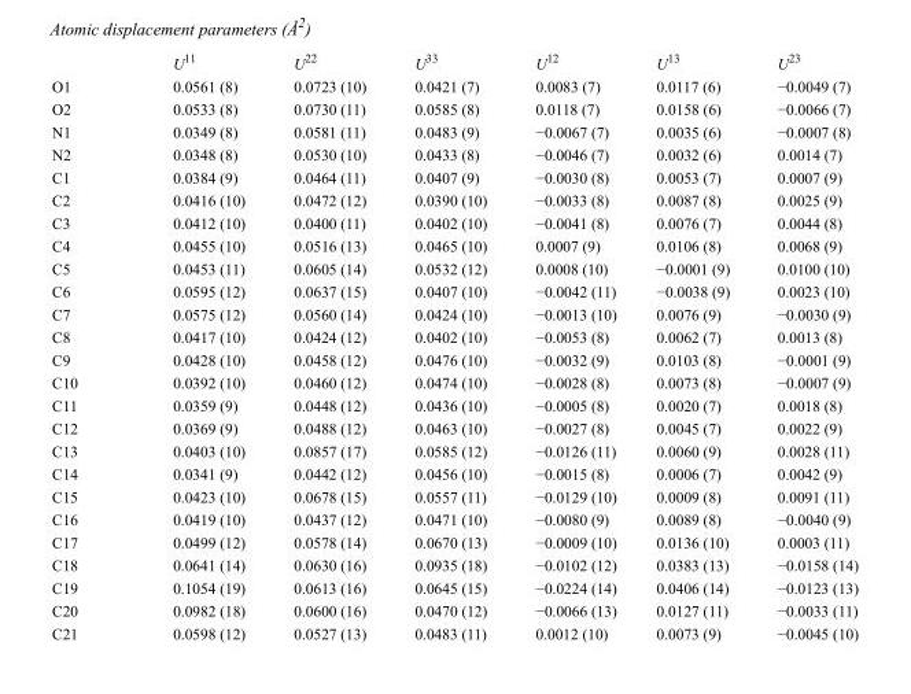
<table><thead><tr><td></td><td>U<sup>11</sup></td><td>U<sup>22</sup></td><td>U<sup>33</sup></td><td>U<sup>12</sup></td><td>U<sup>13</sup></td><td>U<sup>23</sup></td></tr></thead><tbody><tr><td>O1</td><td>0.0561 (8)</td><td>0.0723 (10)</td><td>0.0421 (7)</td><td>0.0083 (7)</td><td>0.0117 (6)</td><td>−0.0049 (7)</td></tr><tr><td>O2</td><td>0.0533 (8)</td><td>0.0730 (11)</td><td>0.0585 (8)</td><td>0.0118 (7)</td><td>0.0158 (6)</td><td>−0.0066 (7)</td></tr><tr><td>N1</td><td>0.0349 (8)</td><td>0.0581 (11)</td><td>0.0483 (9)</td><td>−0.0067 (7)</td><td>0.0035 (6)</td><td>−0.0007 (8)</td></tr><tr><td>N2</td><td>0.0348 (8)</td><td>0.0530 (10)</td><td>0.0433 (8)</td><td>−0.0046 (7)</td><td>0.0032 (6)</td><td>0.0014 (7)</td></tr><tr><td>C1</td><td>0.0384 (9)</td><td>0.0464 (11)</td><td>0.0407 (9)</td><td>−0.0030 (8)</td><td>0.0053 (7)</td><td>0.0007 (9)</td></tr><tr><td>C2</td><td>0.0416 (10)</td><td>0.0472 (12)</td><td>0.0390 (10)</td><td>−0.0033 (8)</td><td>0.0087 (8)</td><td>0.0025 (9)</td></tr><tr><td>C3</td><td>0.0412 (10)</td><td>0.0400 (11)</td><td>0.0402 (10)</td><td>−0.0041 (8)</td><td>0.0076 (7)</td><td>0.0044 (8)</td></tr><tr><td>C4</td><td>0.0455 (10)</td><td>0.0516 (13)</td><td>0.0465 (10)</td><td>0.0007 (9)</td><td>0.0106 (8)</td><td>0.0068 (9)</td></tr><tr><td>C5</td><td>0.0453 (11)</td><td>0.0605 (14)</td><td>0.0532 (12)</td><td>0.0008 (10)</td><td>−0.0001 (9)</td><td>0.0100 (10)</td></tr><tr><td>C6</td><td>0.0595 (12)</td><td>0.0637 (15)</td><td>0.0407 (10)</td><td>−0.0042 (11)</td><td>−0.0038 (9)</td><td>0.0023 (10)</td></tr><tr><td>C7</td><td>0.0575 (12)</td><td>0.0560 (14)</td><td>0.0424 (10)</td><td>−0.0013 (10)</td><td>0.0076 (9)</td><td>−0.0030 (9)</td></tr><tr><td>C8</td><td>0.0417 (10)</td><td>0.0424 (12)</td><td>0.0402 (10)</td><td>−0.0053 (8)</td><td>0.0062 (7)</td><td>0.0013 (8)</td></tr><tr><td>C9</td><td>0.0428 (10)</td><td>0.0458 (12)</td><td>0.0476 (10)</td><td>−0.0032 (9)</td><td>0.0103 (8)</td><td>−0.0001 (9)</td></tr><tr><td>C10</td><td>0.0392 (10)</td><td>0.0460 (12)</td><td>0.0474 (10)</td><td>−0.0028 (8)</td><td>0.0073 (8)</td><td>−0.0007 (9)</td></tr><tr><td>C11</td><td>0.0359 (9)</td><td>0.0448 (12)</td><td>0.0436 (10)</td><td>−0.0005 (8)</td><td>0.0020 (7)</td><td>0.0018 (8)</td></tr><tr><td>C12</td><td>0.0369 (9)</td><td>0.0488 (12)</td><td>0.0463 (10)</td><td>−0.0027 (8)</td><td>0.0045 (7)</td><td>0.0022 (9)</td></tr><tr><td>C13</td><td>0.0403 (10)</td><td>0.0857 (17)</td><td>0.0585 (12)</td><td>−0.0126 (11)</td><td>0.0060 (9)</td><td>0.0028 (11)</td></tr><tr><td>C14</td><td>0.0341 (9)</td><td>0.0442 (12)</td><td>0.0456 (10)</td><td>−0.0015 (8)</td><td>0.0006 (7)</td><td>0.0042 (9)</td></tr><tr><td>C15</td><td>0.0423 (10)</td><td>0.0678 (15)</td><td>0.0557 (11)</td><td>−0.0129 (10)</td><td>0.0009 (8)</td><td>0.0091 (11)</td></tr><tr><td>C16</td><td>0.0419 (10)</td><td>0.0437 (12)</td><td>0.0471 (10)</td><td>−0.0080 (9)</td><td>0.0089 (8)</td><td>−0.0040 (9)</td></tr><tr><td>C17</td><td>0.0499 (12)</td><td>0.0578 (14)</td><td>0.0670 (13)</td><td>−0.0009 (10)</td><td>0.0136 (10)</td><td>0.0003 (11)</td></tr><tr><td>C18</td><td>0.0641 (14)</td><td>0.0630 (16)</td><td>0.0935 (18)</td><td>−0.0102 (12)</td><td>0.0383 (13)</td><td>−0.0158 (14)</td></tr><tr><td>C19</td><td>0.1054 (19)</td><td>0.0613 (16)</td><td>0.0645 (15)</td><td>−0.0224 (14)</td><td>0.0406 (14)</td><td>−0.0123 (13)</td></tr><tr><td>C20</td><td>0.0982 (18)</td><td>0.0600 (16)</td><td>0.0470 (12)</td><td>−0.0066 (13)</td><td>0.0127 (11)</td><td>−0.0033 (11)</td></tr><tr><td>C21</td><td>0.0598 (12)</td><td>0.0527 (13)</td><td>0.0483 (11)</td><td>0.0012 (10)</td><td>0.0073 (9)</td><td>−0.0045 (10)</td></tr></tbody></table>